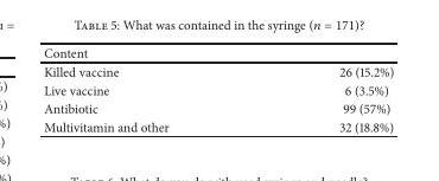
<table><thead><tr><td>Content</td><td></td></tr></thead><tbody><tr><td>Killed vaccine</td><td>26 (15.2%)</td></tr><tr><td>Live vaccine</td><td>6 (3.5%)</td></tr><tr><td>Antibiotic</td><td>99 (57%)</td></tr><tr><td>Multivitamin and other</td><td>32 (18.8%)</td></tr></tbody></table>